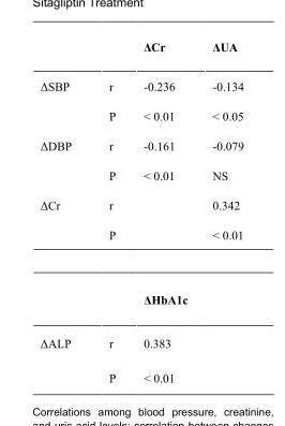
<table><thead><tr><td></td><td></td><td>ΔCr</td><td>ΔUA</td></tr></thead><tbody><tr><td rowspan="2">ΔSBP</td><td>r</td><td>-0.236</td><td>-0.134</td></tr><tr><td>P</td><td>&lt; 0.01</td><td>&lt; 0.05</td></tr><tr><td rowspan="2">ΔDBP</td><td>r</td><td>-0.161</td><td>-0.079</td></tr><tr><td>P</td><td>&lt; 0.01</td><td>NS</td></tr><tr><td rowspan="3">ΔCr</td><td>r</td><td></td><td>0.342</td></tr><tr><td>P</td><td></td><td>&lt; 0.01</td></tr><tr><td></td><td colspan="2">ΔHbA1c</td></tr><tr><td rowspan="2">ΔALP</td><td>r</td><td colspan="2">0.383</td></tr><tr><td>P</td><td colspan="2">&lt; 0.01</td></tr></tbody></table>